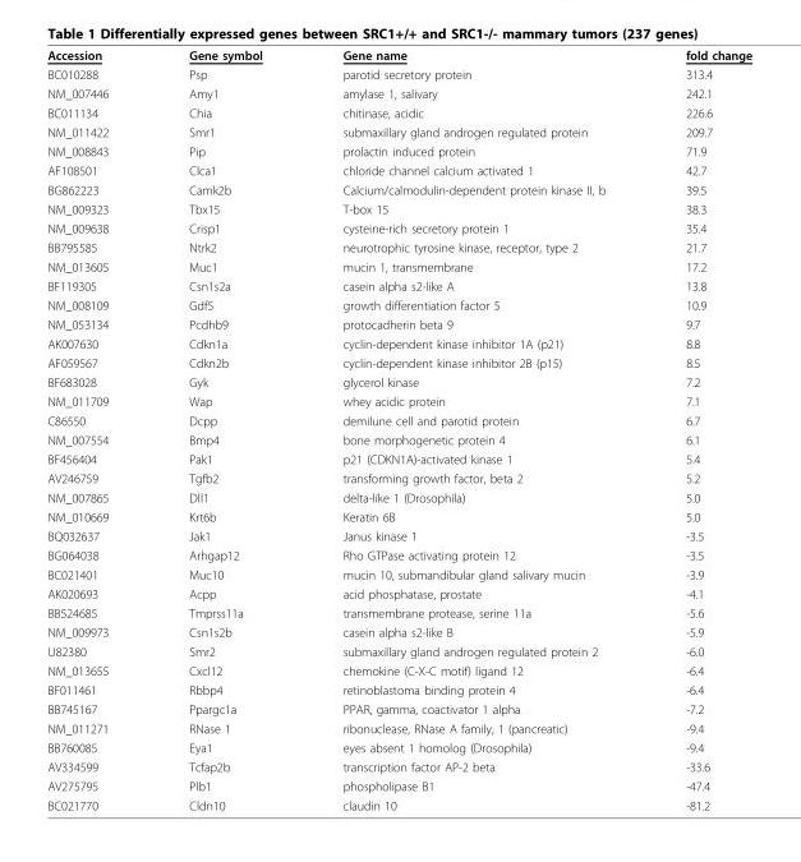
<table><tbody><tr><td>Accession</td><td>Gene symbol</td><td>Gene name</td><td>fold change</td></tr><tr><td>BC010288</td><td>Psp</td><td>parotid secretory protein</td><td>313.4</td></tr><tr><td>NM_007446</td><td>Amy1</td><td>amylase 1, salivary</td><td>242.1</td></tr><tr><td>BC011134</td><td>Chia</td><td>chitinase, acidic</td><td>226.6</td></tr><tr><td>NM_011422</td><td>Smr1</td><td>submaxillary gland androgen regulated protein</td><td>209.7</td></tr><tr><td>NM_008843</td><td>Pip</td><td>prolactin induced protein</td><td>71.9</td></tr><tr><td>AF108501</td><td>Clca1</td><td>chloride channel calcium activated 1</td><td>42.7</td></tr><tr><td>BG862223</td><td>Camk2b</td><td>Calcium/calmodulin-dependent protein kinase II, b</td><td>39.5</td></tr><tr><td>NM_009323</td><td>Tbx15</td><td>T-box 15</td><td>38.3</td></tr><tr><td>NM_009638</td><td>Crisp1</td><td>cysteine-rich secretory protein 1</td><td>35.4</td></tr><tr><td>BB795585</td><td>Ntrk2</td><td>neurotrophic tyrosine kinase, receptor, type 2</td><td>21.7</td></tr><tr><td>NM_013605</td><td>Muc1</td><td>mucin 1, transmembrane</td><td>17.2</td></tr><tr><td>BF119305</td><td>Csn1s2a</td><td>casein alpha s2-like A</td><td>13.8</td></tr><tr><td>NM_008109</td><td>Gdf5</td><td>growth differentiation factor 5</td><td>10.9</td></tr><tr><td>NM_053134</td><td>Pcdhb9</td><td>protocadherin beta 9</td><td>9.7</td></tr><tr><td>AK007630</td><td>Cdkn1a</td><td>cyclin-dependent kinase inhibitor 1A (p21)</td><td>8.8</td></tr><tr><td>AF059567</td><td>Cdkn2b</td><td>cyclin-dependent kinase inhibitor 2B (p15)</td><td>8.5</td></tr><tr><td>BF683028</td><td>Gyk</td><td>glycerol kinase</td><td>7.2</td></tr><tr><td>NM_011709</td><td>Wap</td><td>whey acidic protein</td><td>7.1</td></tr><tr><td>C86550</td><td>Dcpp</td><td>demilune cell and parotid protein</td><td>6.7</td></tr><tr><td>NM_007554</td><td>Bmp4</td><td>bone morphogenetic protein 4</td><td>6.1</td></tr><tr><td>BF456404</td><td>Pak1</td><td>p21 (CDKN1A)-activated kinase 1</td><td>5.4</td></tr><tr><td>AV246759</td><td>Tgfb2</td><td>transforming growth factor, beta 2</td><td>5.2</td></tr><tr><td>NM_007865</td><td>Dll1</td><td>delta-like 1 (Drosophila)</td><td>5.0</td></tr><tr><td>NM_010669</td><td>Krt6b</td><td>Keratin 6B</td><td>5.0</td></tr><tr><td>BQ032637</td><td>Jak1</td><td>Janus kinase 1</td><td>-3.5</td></tr><tr><td>BG064038</td><td>Arhgap12</td><td>Rho GTPase activating protein 12</td><td>-3.5</td></tr><tr><td>BC021401</td><td>Muc10</td><td>mucin 10, submandibular gland salivary mucin</td><td>-3.9</td></tr><tr><td>AK020693</td><td>Acpp</td><td>acid phosphatase, prostate</td><td>-4.1</td></tr><tr><td>BB524685</td><td>Tmprss11a</td><td>transmembrane protease, serine 11a</td><td>-5.6</td></tr><tr><td>NM_009973</td><td>Csn1s2b</td><td>casein alpha s2-like B</td><td>-5.9</td></tr><tr><td>U82380</td><td>Smr2</td><td>submaxillary gland androgen regulated protein 2</td><td>-6.0</td></tr><tr><td>NM_013655</td><td>Cxcl12</td><td>chemokine (C-X-C motif) ligand 12</td><td>-6.4</td></tr><tr><td>BF011461</td><td>Rbbp4</td><td>retinoblastoma binding protein 4</td><td>-6.4</td></tr><tr><td>BB745167</td><td>Ppargc1a</td><td>PPAR, gamma, coactivator 1 alpha</td><td>-7.2</td></tr><tr><td>NM_011271</td><td>RNase 1</td><td>ribonuclease, RNase A family, 1 (pancreatic)</td><td>-9.4</td></tr><tr><td>BB760085</td><td>Eya1</td><td>eyes absent 1 homolog (Drosophila)</td><td>-9.4</td></tr><tr><td>AV334599</td><td>Tcfap2b</td><td>transcription factor AP-2 beta</td><td>-33.6</td></tr><tr><td>AV275795</td><td>Plb1</td><td>phospholipase B1</td><td>-47.4</td></tr><tr><td>BC021770</td><td>Cldn10</td><td>claudin 10</td><td>-81.2</td></tr></tbody></table>